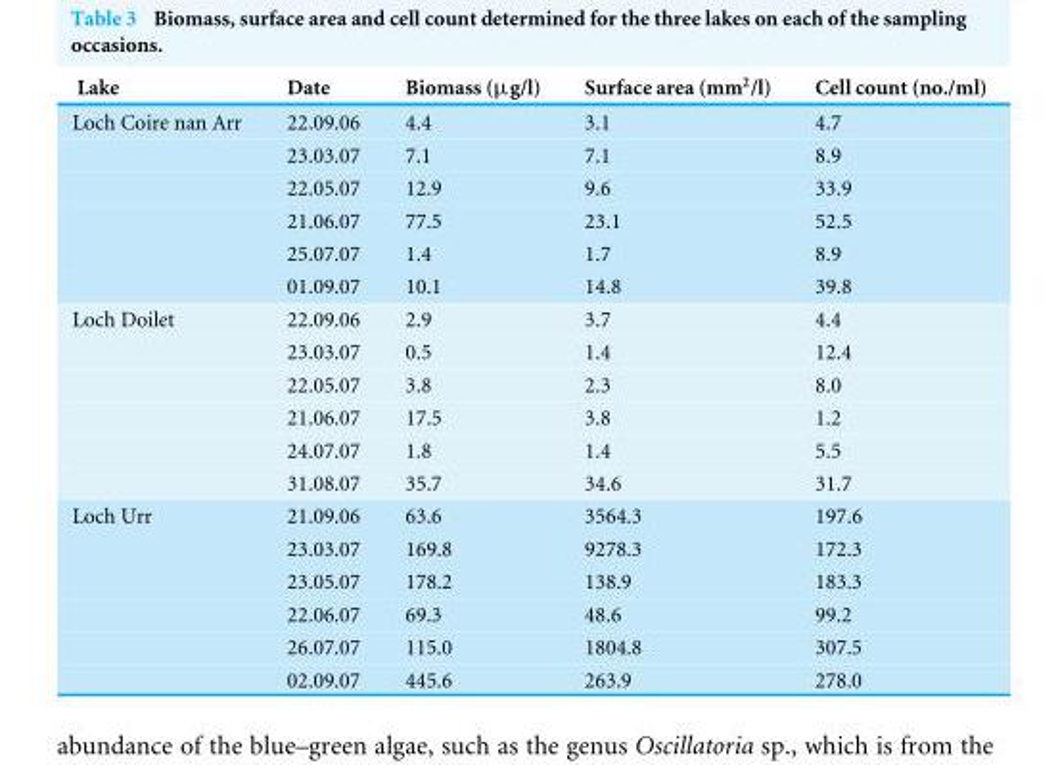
<table><thead><tr><td>Lake</td><td>Date</td><td>Biomass (µg/l)</td><td>Surface area (mm<sup>2</sup>/l)</td><td>Cell count (no./ml)</td></tr></thead><tbody><tr><td rowspan="6">Loch Coire nan Arr</td><td>22.09.06</td><td>4.4</td><td>3.1</td><td>4.7</td></tr><tr><td>23.03.07</td><td>7.1</td><td>7.1</td><td>8.9</td></tr><tr><td>22.05.07</td><td>12.9</td><td>9.6</td><td>33.9</td></tr><tr><td>21.06.07</td><td>77.5</td><td>23.1</td><td>52.5</td></tr><tr><td>25.07.07</td><td>1.4</td><td>1.7</td><td>8.9</td></tr><tr><td>01.09.07</td><td>10.1</td><td>14.8</td><td>39.8</td></tr><tr><td rowspan="6">Loch Doilet</td><td>22.09.06</td><td>2.9</td><td>3.7</td><td>4.4</td></tr><tr><td>23.03.07</td><td>0.5</td><td>1.4</td><td>12.4</td></tr><tr><td>22.05.07</td><td>3.8</td><td>2.3</td><td>8.0</td></tr><tr><td>21.06.07</td><td>17.5</td><td>3.8</td><td>1.2</td></tr><tr><td>24.07.07</td><td>1.8</td><td>1.4</td><td>5.5</td></tr><tr><td>31.08.07</td><td>35.7</td><td>34.6</td><td>31.7</td></tr><tr><td rowspan="6">Loch Urr</td><td>21.09.06</td><td>63.6</td><td>3564.3</td><td>197.6</td></tr><tr><td>23.03.07</td><td>169.8</td><td>9278.3</td><td>172.3</td></tr><tr><td>23.05.07</td><td>178.2</td><td>138.9</td><td>183.3</td></tr><tr><td>22.06.07</td><td>69.3</td><td>48.6</td><td>99.2</td></tr><tr><td>26.07.07</td><td>115.0</td><td>1804.8</td><td>307.5</td></tr><tr><td>02.09.07</td><td>445.6</td><td>263.9</td><td>278.0</td></tr></tbody></table>